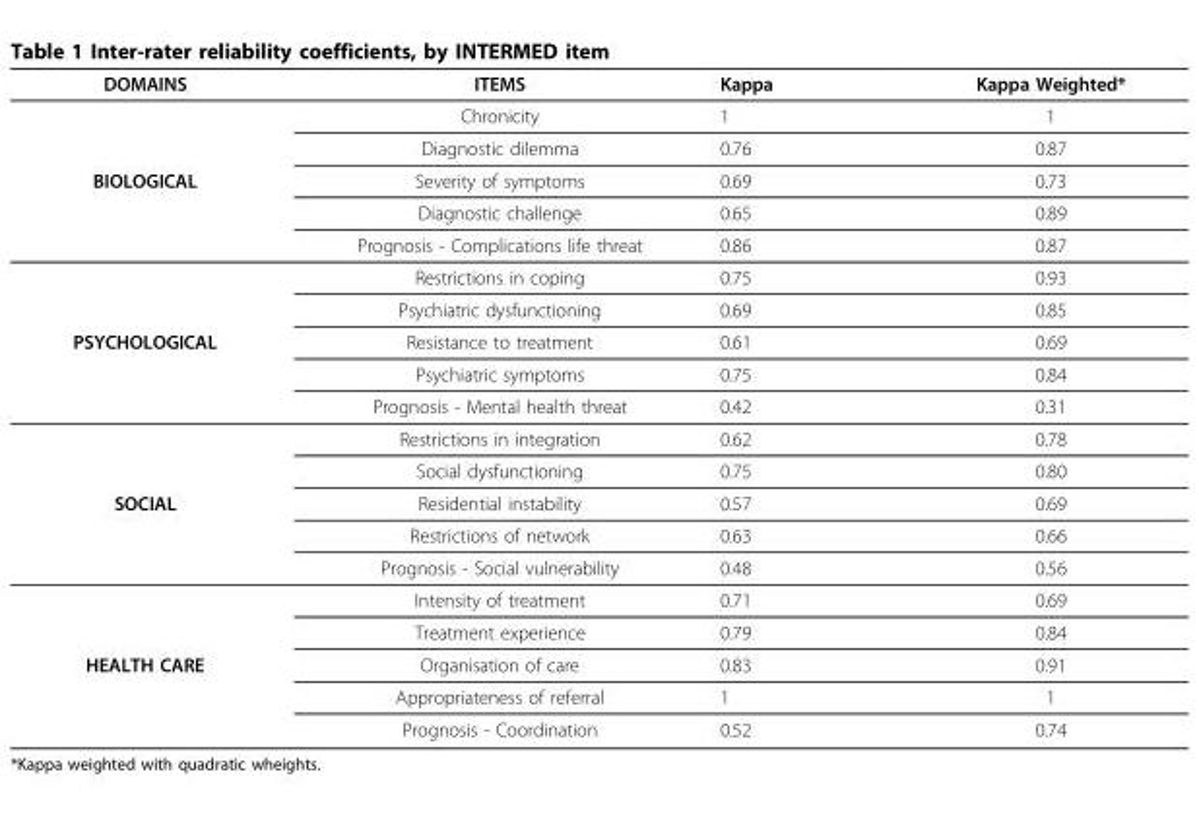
<table><thead><tr><td>DOMAINS</td><td>ITEMS</td><td>Kappa</td><td>Kappa Weighted*</td></tr></thead><tbody><tr><td></td><td>Chronicity</td><td>1</td><td>1</td></tr><tr><td></td><td>Diagnostic dilemma</td><td>0.76</td><td>0.87</td></tr><tr><td rowspan="5">BIOLOGICAL</td><td>Severity of symptoms</td><td>0.69</td><td>0.73</td></tr><tr><td>Diagnostic challenge</td><td>0.65</td><td>0.89</td></tr><tr><td>Prognosis - Complications life threat</td><td>0.86</td><td>0.87</td></tr><tr><td>Restrictions in coping</td><td>0.75</td><td>0.93</td></tr><tr><td>Psychiatric dysfunctioning</td><td>0.69</td><td>0.85</td></tr><tr><td rowspan="5">PSYCHOLOGICAL</td><td>Resistance to treatment</td><td>0.61</td><td>0.69</td></tr><tr><td>Psychiatric symptoms</td><td>0.75</td><td>0.84</td></tr><tr><td>Prognosis - Mental health threat</td><td>0.42</td><td>0.31</td></tr><tr><td>Restrictions in integration</td><td>0.62</td><td>0.78</td></tr><tr><td>Social dysfunctioning</td><td>0.75</td><td>0.80</td></tr><tr><td rowspan="5">SOCIAL</td><td>Residential instability</td><td>0.57</td><td>0.69</td></tr><tr><td>Restrictions of network</td><td>0.63</td><td>0.66</td></tr><tr><td>Prognosis - Social vulnerability</td><td>0.48</td><td>0.56</td></tr><tr><td>Intensity of treatment</td><td>0.71</td><td>0.69</td></tr><tr><td>Treatment experience</td><td>0.79</td><td>0.84</td></tr><tr><td rowspan="3">HEALTH CARE</td><td>Organisation of care</td><td>0.83</td><td>0.91</td></tr><tr><td>Appropriateness of referral</td><td>1</td><td>1</td></tr><tr><td>Prognosis - Coordination</td><td>0.52</td><td>0.74</td></tr></tbody></table>